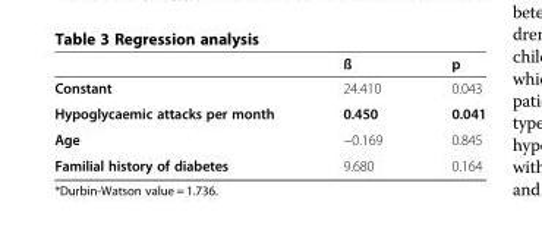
<table><thead><tr><td></td><td>ß</td><td>p</td></tr></thead><tbody><tr><td>Constant</td><td>24.410</td><td>0.043</td></tr><tr><td>Hypoglycaemic attacks per month</td><td>0.450</td><td>0.041</td></tr><tr><td>Age</td><td>−0.169</td><td>0.845</td></tr><tr><td>Familial history of diabetes</td><td>9.680</td><td>0.164</td></tr></tbody></table>